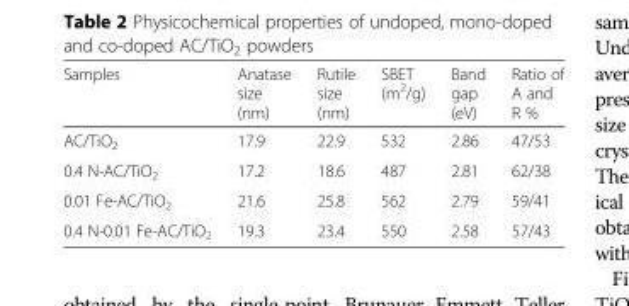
<table><thead><tr><td>Samples</td><td>Anatase size (nm)</td><td>Rutile size (nm)</td><td>SBET (m<sup>2</sup>/g)</td><td>Band gap (eV)</td><td>Ratio of A and R %</td></tr></thead><tbody><tr><td>AC/TiO<sub>2</sub></td><td>17.9</td><td>22.9</td><td>532</td><td>2.86</td><td>47/53</td></tr><tr><td>0.4 N-AC/TiO<sub>2</sub></td><td>17.2</td><td>18.6</td><td>487</td><td>2.81</td><td>62/38</td></tr><tr><td>0.01 Fe-AC/TiO<sub>2</sub></td><td>21.6</td><td>25.8</td><td>562</td><td>2.79</td><td>59/41</td></tr><tr><td>0.4 N-0.01 Fe-AC/TiO<sub>2</sub></td><td>19.3</td><td>23.4</td><td>550</td><td>2.58</td><td>57/43</td></tr></tbody></table>